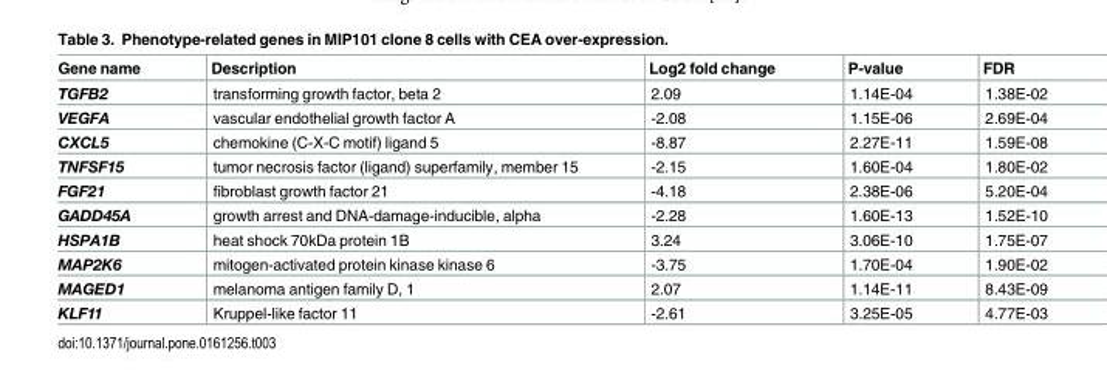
<table><thead><tr><td>Gene name</td><td>Description</td><td>Log2 fold change</td><td>P-value</td><td>FDR</td></tr></thead><tbody><tr><td>TGFB2</td><td>transforming growth factor, beta 2</td><td>2.09</td><td>1.14E-04</td><td>1.38E-02</td></tr><tr><td>VEGFA</td><td>vascular endothelial growth factor A</td><td>-2.08</td><td>1.15E-06</td><td>2.69E-04</td></tr><tr><td>CXCL5</td><td>chemokine (C-X-C motif) ligand 5</td><td>-8.87</td><td>2.27E-11</td><td>1.59E-08</td></tr><tr><td>TNFSF15</td><td>tumor necrosis factor (ligand) superfamily, member 15</td><td>-2.15</td><td>1.60E-04</td><td>1.80E-02</td></tr><tr><td>FGF21</td><td>fibroblast growth factor 21</td><td>-4.18</td><td>2.38E-06</td><td>5.20E-04</td></tr><tr><td>GADD45A</td><td>growth arrest and DNA-damage-inducible, alpha</td><td>-2.28</td><td>1.60E-13</td><td>1.52E-10</td></tr><tr><td>HSPA1B</td><td>heat shock 70kDa protein 1B</td><td>3.24</td><td>3.06E-10</td><td>1.75E-07</td></tr><tr><td>MAP2K6</td><td>mitogen-activated protein kinase kinase 6</td><td>-3.75</td><td>1.70E-04</td><td>1.90E-02</td></tr><tr><td>MAGED1</td><td>melanoma antigen family D, 1</td><td>2.07</td><td>1.14E-11</td><td>8.43E-09</td></tr><tr><td>KLF11</td><td>Kruppel-like factor 11</td><td>-2.61</td><td>3.25E-05</td><td>4.77E-03</td></tr></tbody></table>